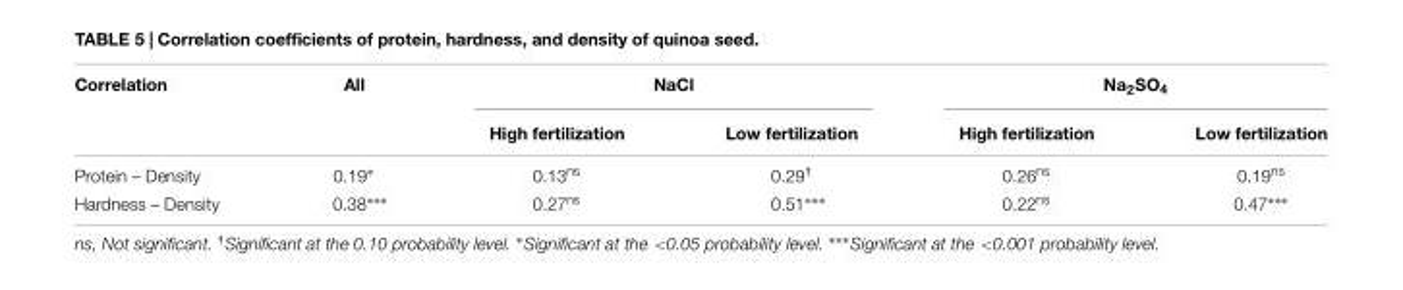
<table><thead><tr><td rowspan="2">Correlation</td><td rowspan="2">All</td><td colspan="2">NaCl</td><td colspan="2">Na<sub>2</sub>SO<sub>4</sub></td></tr><tr><td>High fertilization</td><td>Low fertilization</td><td>High fertilization</td><td>Low fertilization</td></tr></thead><tbody><tr><td>Protein – Density</td><td>0.19∗</td><td>0.13<sup>ns</sup></td><td>0.29†</td><td>0.26<sup>ns</sup></td><td>0.19<sup>ns</sup></td></tr><tr><td>Hardness – Density</td><td>0.38∗∗∗</td><td>0.27<sup>ns</sup></td><td>0.51∗∗∗</td><td>0.22<sup>ns</sup></td><td>0.47∗∗∗</td></tr></tbody></table>